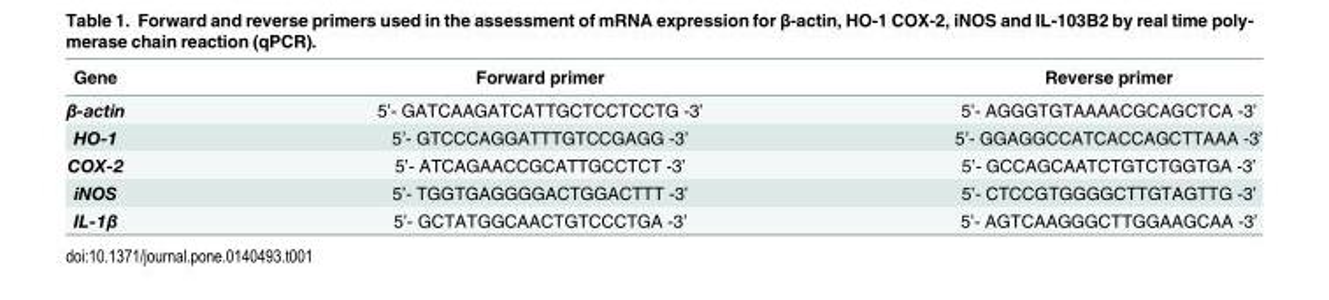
<table><thead><tr><td>Gene</td><td>Forward primer</td><td>Reverse primer</td></tr></thead><tbody><tr><td>β-actin</td><td>5’- GATCAAGATCATTGCTCCTCCTG -3’</td><td>5’- AGGGTGTAAAACGCAGCTCA -3’</td></tr><tr><td>HO-1</td><td>5’- GTCCCAGGATTTGTCCGAGG -3’</td><td>5’- GGAGGCCATCACCAGCTTAAA -3’</td></tr><tr><td>COX-2</td><td>5’- ATCAGAACCGCATTGCCTCT -3’</td><td>5’- GCCAGCAATCTGTCTGGTGA -3’</td></tr><tr><td>iNOS</td><td>5’- TGGTGAGGGGACTGGACTTT -3’</td><td>5’- CTCCGTGGGGCTTGTAGTTG -3’</td></tr><tr><td>IL-1β</td><td>5’- GCTATGGCAACTGTCCCTGA -3’</td><td>5’- AGTCAAGGGCTTGGAAGCAA -3’</td></tr></tbody></table>